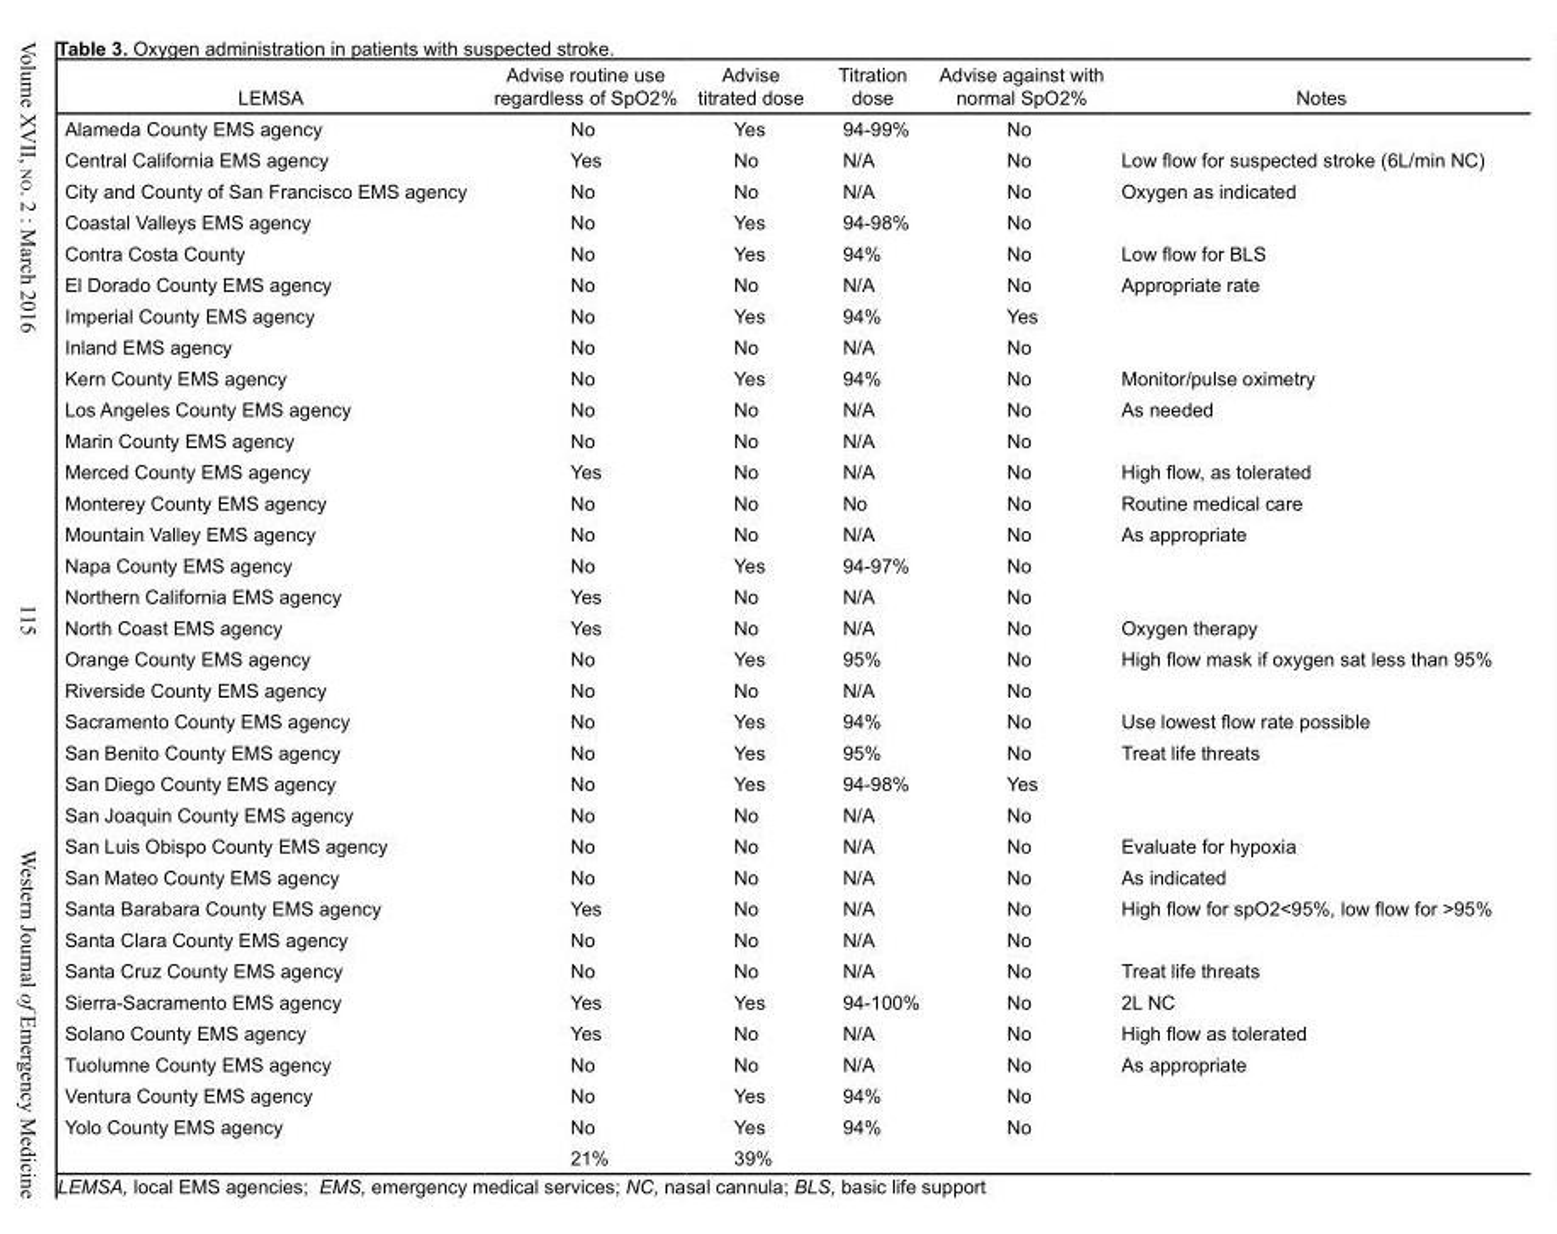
<table><thead><tr><td>LEMSA</td><td>Advise routine use regardless of SpO2%</td><td>Advise titrated dose</td><td>Titration dose</td><td>Advise against with normal SpO2%</td><td>Notes</td></tr></thead><tbody><tr><td>Alameda County EMS agency</td><td>No</td><td>Yes</td><td>94-99%</td><td>No</td><td></td></tr><tr><td>Central California EMS agency</td><td>Yes</td><td>No</td><td>N/A</td><td>No</td><td>Low flow for suspected stroke (6L/min NC)</td></tr><tr><td>City and County of San Francisco EMS agency</td><td>No</td><td>No</td><td>N/A</td><td>No</td><td>Oxygen as indicated</td></tr><tr><td>Coastal Valleys EMS agency</td><td>No</td><td>Yes</td><td>94-98%</td><td>No</td><td></td></tr><tr><td>Contra Costa County</td><td>No</td><td>Yes</td><td>94%</td><td>No</td><td>Low flow for BLS</td></tr><tr><td>El Dorado County EMS agency</td><td>No</td><td>No</td><td>N/A</td><td>No</td><td>Appropriate rate</td></tr><tr><td>Imperial County EMS agency</td><td>No</td><td>Yes</td><td>94%</td><td>Yes</td><td></td></tr><tr><td>Inland EMS agency</td><td>No</td><td>No</td><td>N/A</td><td>No</td><td></td></tr><tr><td>Kern County EMS agency</td><td>No</td><td>Yes</td><td>94%</td><td>No</td><td>Monitor/pulse oximetry</td></tr><tr><td>Los Angeles County EMS agency</td><td>No</td><td>No</td><td>N/A</td><td>No</td><td>As needed</td></tr><tr><td>Marin County EMS agency</td><td>No</td><td>No</td><td>N/A</td><td>No</td><td></td></tr><tr><td>Merced County EMS agency</td><td>Yes</td><td>No</td><td>N/A</td><td>No</td><td>High flow, as tolerated</td></tr><tr><td>Monterey County EMS agency</td><td>No</td><td>No</td><td>No</td><td>No</td><td>Routine medical care</td></tr><tr><td>Mountain Valley EMS agency</td><td>No</td><td>No</td><td>N/A</td><td>No</td><td>As appropriate</td></tr><tr><td>Napa County EMS agency</td><td>No</td><td>Yes</td><td>94-97%</td><td>No</td><td></td></tr><tr><td>Northern California EMS agency</td><td>Yes</td><td>No</td><td>N/A</td><td>No</td><td></td></tr><tr><td>North Coast EMS agency</td><td>Yes</td><td>No</td><td>N/A</td><td>No</td><td>Oxygen therapy</td></tr><tr><td>Orange County EMS agency</td><td>No</td><td>Yes</td><td>95%</td><td>No</td><td>High flow mask if oxygen sat less than 95%</td></tr><tr><td>Riverside County EMS agency</td><td>No</td><td>No</td><td>N/A</td><td>No</td><td></td></tr><tr><td>Sacramento County EMS agency</td><td>No</td><td>Yes</td><td>94%</td><td>No</td><td>Use lowest flow rate possible</td></tr><tr><td>San Benito County EMS agency</td><td>No</td><td>Yes</td><td>95%</td><td>No</td><td>Treat life threats</td></tr><tr><td>San Diego County EMS agency</td><td>No</td><td>Yes</td><td>94-98%</td><td>Yes</td><td></td></tr><tr><td>San Joaquin County EMS agency</td><td>No</td><td>No</td><td>N/A</td><td>No</td><td></td></tr><tr><td>San Luis Obispo County EMS agency</td><td>No</td><td>No</td><td>N/A</td><td>No</td><td>Evaluate for hypoxia</td></tr><tr><td>San Mateo County EMS agency</td><td>No</td><td>No</td><td>N/A</td><td>No</td><td>As indicated</td></tr><tr><td>Santa Barabara County EMS agency</td><td>Yes</td><td>No</td><td>N/A</td><td>No</td><td>High flow for spO2&lt;95%, low flow for &gt;95%</td></tr><tr><td>Santa Clara County EMS agency</td><td>No</td><td>No</td><td>N/A</td><td>No</td><td></td></tr><tr><td>Santa Cruz County EMS agency</td><td>No</td><td>No</td><td>N/A</td><td>No</td><td>Treat life threats</td></tr><tr><td>Sierra-Sacramento EMS agency</td><td>Yes</td><td>Yes</td><td>94-100%</td><td>No</td><td>2L NC</td></tr><tr><td>Solano County EMS agency</td><td>Yes</td><td>No</td><td>N/A</td><td>No</td><td>High flow as tolerated</td></tr><tr><td>Tuolumne County EMS agency</td><td>No</td><td>No</td><td>N/A</td><td>No</td><td>As appropriate</td></tr><tr><td>Ventura County EMS agency</td><td>No</td><td>Yes</td><td>94%</td><td>No</td><td></td></tr><tr><td rowspan="2">Yolo County EMS agency</td><td>No</td><td>Yes</td><td>94%</td><td>No</td><td></td></tr><tr><td>21%</td><td>39%</td><td></td><td></td><td></td></tr></tbody></table>